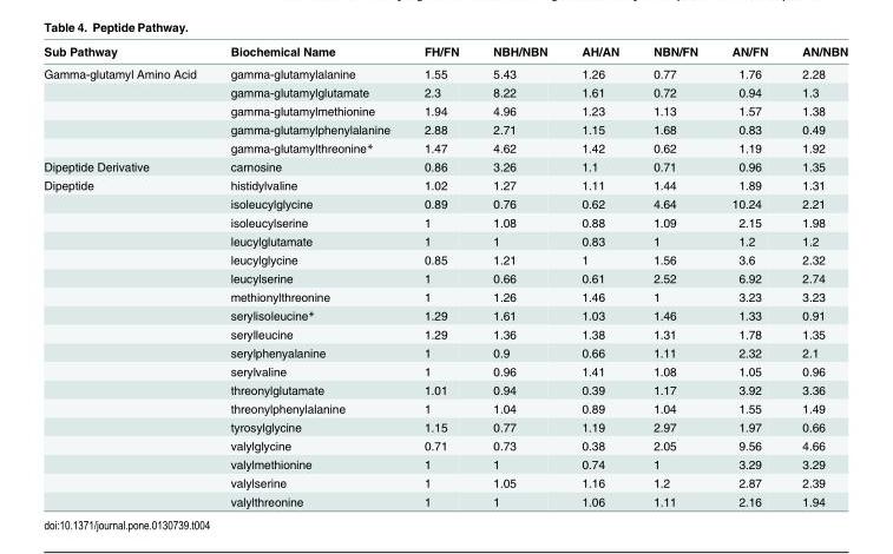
<table><thead><tr><td>Sub Pathway</td><td>Biochemical Name</td><td>FH/FN</td><td>NBH/NBN</td><td>AH/AN</td><td>NBN/FN</td><td>AN/FN</td><td>AN/NBN</td></tr></thead><tbody><tr><td rowspan="5">Gamma-glutamyl Amino Acid</td><td>gamma-glutamylalanine</td><td>1.55</td><td>5.43</td><td>1.26</td><td>0.77</td><td>1.76</td><td>2.28</td></tr><tr><td>gamma-glutamylglutamate</td><td>2.3</td><td>8.22</td><td>1.61</td><td>0.72</td><td>0.94</td><td>1.3</td></tr><tr><td>gamma-glutamylmethionine</td><td>1.94</td><td>4.96</td><td>1.23</td><td>1.13</td><td>1.57</td><td>1.38</td></tr><tr><td>gamma-glutamylphenylalanine</td><td>2.88</td><td>2.71</td><td>1.15</td><td>1.68</td><td>0.83</td><td>0.49</td></tr><tr><td>gamma-glutamylthreonine*</td><td>1.47</td><td>4.62</td><td>1.42</td><td>0.62</td><td>1.19</td><td>1.92</td></tr><tr><td>Dipeptide Derivative</td><td>carnosine</td><td>0.86</td><td>3.26</td><td>1.1</td><td>0.71</td><td>0.96</td><td>1.35</td></tr><tr><td rowspan="18">Dipeptide</td><td>histidylvaline</td><td>1.02</td><td>1.27</td><td>1.11</td><td>1.44</td><td>1.89</td><td>1.31</td></tr><tr><td>isoleucylglycine</td><td>0.89</td><td>0.76</td><td>0.62</td><td>4.64</td><td>10.24</td><td>2.21</td></tr><tr><td>isoleucylserine</td><td>1</td><td>1.08</td><td>0.88</td><td>1.09</td><td>2.15</td><td>1.98</td></tr><tr><td>leucylglutamate</td><td>1</td><td>1</td><td>0.83</td><td>1</td><td>1.2</td><td>1.2</td></tr><tr><td>leucylglycine</td><td>0.85</td><td>1.21</td><td>1</td><td>1.56</td><td>3.6</td><td>2.32</td></tr><tr><td>leucylserine</td><td>1</td><td>0.66</td><td>0.61</td><td>2.52</td><td>6.92</td><td>2.74</td></tr><tr><td>methionylthreonine</td><td>1</td><td>1.26</td><td>1.46</td><td>1</td><td>3.23</td><td>3.23</td></tr><tr><td>serylisoleucine*</td><td>1.29</td><td>1.61</td><td>1.03</td><td>1.46</td><td>1.33</td><td>0.91</td></tr><tr><td>serylleucine</td><td>1.29</td><td>1.36</td><td>1.38</td><td>1.31</td><td>1.78</td><td>1.35</td></tr><tr><td>serylphenyalanine</td><td>1</td><td>0.9</td><td>0.66</td><td>1.11</td><td>2.32</td><td>2.1</td></tr><tr><td>serylvaline</td><td>1</td><td>0.96</td><td>1.41</td><td>1.08</td><td>1.05</td><td>0.96</td></tr><tr><td>threonylglutamate</td><td>1.01</td><td>0.94</td><td>0.39</td><td>1.17</td><td>3.92</td><td>3.36</td></tr><tr><td>threonylphenylalanine</td><td>1</td><td>1.04</td><td>0.89</td><td>1.04</td><td>1.55</td><td>1.49</td></tr><tr><td>tyrosylglycine</td><td>1.15</td><td>0.77</td><td>1.19</td><td>2.97</td><td>1.97</td><td>0.66</td></tr><tr><td>valylglycine</td><td>0.71</td><td>0.73</td><td>0.38</td><td>2.05</td><td>9.56</td><td>4.66</td></tr><tr><td>valylmethionine</td><td>1</td><td>1</td><td>0.74</td><td>1</td><td>3.29</td><td>3.29</td></tr><tr><td>valylserine</td><td>1</td><td>1.05</td><td>1.16</td><td>1.2</td><td>2.87</td><td>2.39</td></tr><tr><td>valylthreonine</td><td>1</td><td>1</td><td>1.06</td><td>1.11</td><td>2.16</td><td>1.94</td></tr></tbody></table>